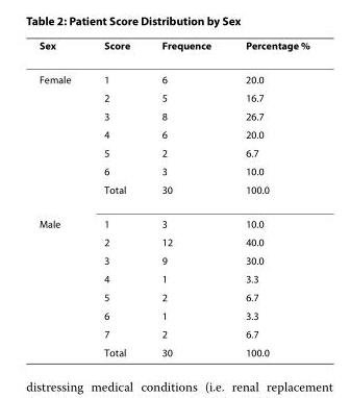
<table><thead><tr><td>Sex</td><td>Score</td><td>Frequence</td><td>Percentage %</td></tr></thead><tbody><tr><td rowspan="7">Female</td><td>1</td><td>6</td><td>20.0</td></tr><tr><td>2</td><td>5</td><td>16.7</td></tr><tr><td>3</td><td>8</td><td>26.7</td></tr><tr><td>4</td><td>6</td><td>20.0</td></tr><tr><td>5</td><td>2</td><td>6.7</td></tr><tr><td>6</td><td>3</td><td>10.0</td></tr><tr><td>Total</td><td>30</td><td>100.0</td></tr><tr><td rowspan="8">Male</td><td>1</td><td>3</td><td>10.0</td></tr><tr><td>2</td><td>12</td><td>40.0</td></tr><tr><td>3</td><td>9</td><td>30.0</td></tr><tr><td>4</td><td>1</td><td>3.3</td></tr><tr><td>5</td><td>2</td><td>6.7</td></tr><tr><td>6</td><td>1</td><td>3.3</td></tr><tr><td>7</td><td>2</td><td>6.7</td></tr><tr><td>Total</td><td>30</td><td>100.0</td></tr></tbody></table>